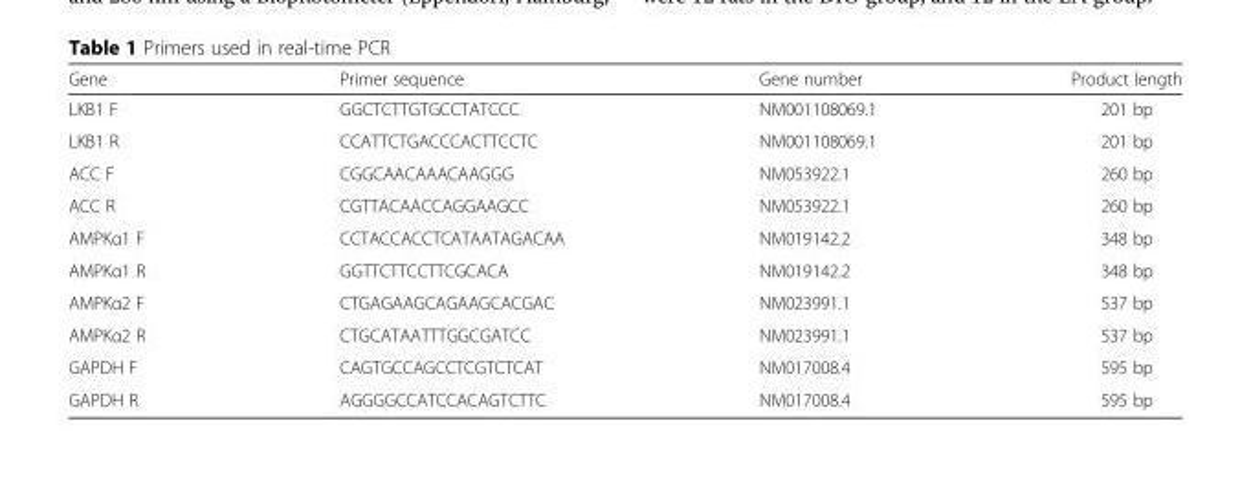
<table><thead><tr><td>Gene</td><td>Primer sequence</td><td>Gene number</td><td>Product length</td></tr></thead><tbody><tr><td>LKB1 F</td><td>GGCTCTTGTGCCTATCCC</td><td>NM001108069.1</td><td>201 bp</td></tr><tr><td>LKB1 R</td><td>CCATTCTGACCCACTTCCTC</td><td>NM001108069.1</td><td>201 bp</td></tr><tr><td>ACC F</td><td>CGGCAACAAACAAGGG</td><td>NM053922.1</td><td>260 bp</td></tr><tr><td>ACC R</td><td>CGTTACAACCAGGAAGCC</td><td>NM053922.1</td><td>260 bp</td></tr><tr><td>AMPKα1 F</td><td>CCTACCACCTCATAATAGACAA</td><td>NM019142.2</td><td>348 bp</td></tr><tr><td>AMPKα1 R</td><td>GGTTCTTCCTTCGCACA</td><td>NM019142.2</td><td>348 bp</td></tr><tr><td>AMPKα2 F</td><td>CTGAGAAGCAGAAGCACGAC</td><td>NM023991.1</td><td>537 bp</td></tr><tr><td>AMPKα2 R</td><td>CTGCATAATTTGGCGATCC</td><td>NM023991.1</td><td>537 bp</td></tr><tr><td>GAPDH F</td><td>CAGTGCCAGCCTCGTCTCAT</td><td>NM017008.4</td><td>595 bp</td></tr><tr><td>GAPDH R</td><td>AGGGGCCATCCACAGTCTTC</td><td>NM017008.4</td><td>595 bp</td></tr></tbody></table>